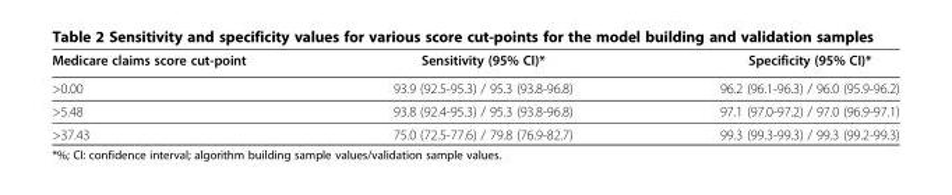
<table><thead><tr><td>Medicare claims score cut-point</td><td>Sensitivity (95% CI)*</td><td>Specificity (95% CI)*</td></tr></thead><tbody><tr><td>&gt;0.00</td><td>93.9 (92.5-95.3) / 95.3 (93.8-96.8)</td><td>96.2 (96.1-96.3) / 96.0 (95.9-96.2)</td></tr><tr><td>&gt;5.48</td><td>93.8 (92.4-95.3) / 95.3 (93.8-96.8)</td><td>97.1 (97.0-97.2) / 97.0 (96.9-97.1)</td></tr><tr><td>&gt;37.43</td><td>75.0 (72.5-77.6) / 79.8 (76.9-82.7)</td><td>99.3 (99.3-99.3) / 99.3 (99.2-99.3)</td></tr></tbody></table>